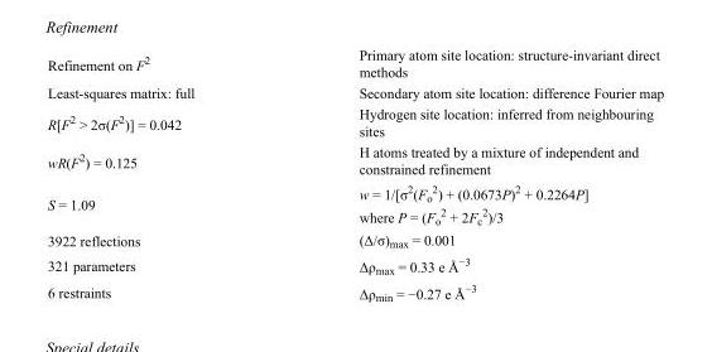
<table><tbody><tr><td>Refinement on F<sup>2</sup></td><td>Primary atom site location: structure-invariant direct methods</td></tr><tr><td>Least-squares matrix: full</td><td>Secondary atom site location: difference Fourier map</td></tr><tr><td>R[F<sup>2</sup> &gt; 2σ(F<sup>2</sup>)] = 0.042</td><td>Hydrogen site location: inferred from neighbouring sites</td></tr><tr><td>wR(F<sup>2</sup>) = 0.125</td><td>H atoms treated by a mixture of independent and constrained refinement</td></tr><tr><td>S = 1.09</td><td>w = 1/[σ<sup>2</sup>(F<sub>o</sub> <sup>2</sup>) + (0.0673P)<sup>2</sup> + 0.2264P] where P = (F<sub>o</sub> <sup>2</sup> + 2F<sub>c</sub> <sup>2</sup>)/3</td></tr><tr><td>3922 reflections</td><td>(Δ/σ)<sub>max</sub> = 0.001</td></tr><tr><td>321 parameters</td><td>Δρ<sub>max</sub> = 0.33 e Å<sup>−3</sup></td></tr><tr><td>6 restraints</td><td>Δρ<sub>min</sub> = −0.27 e Å<sup>−3</sup></td></tr></tbody></table>